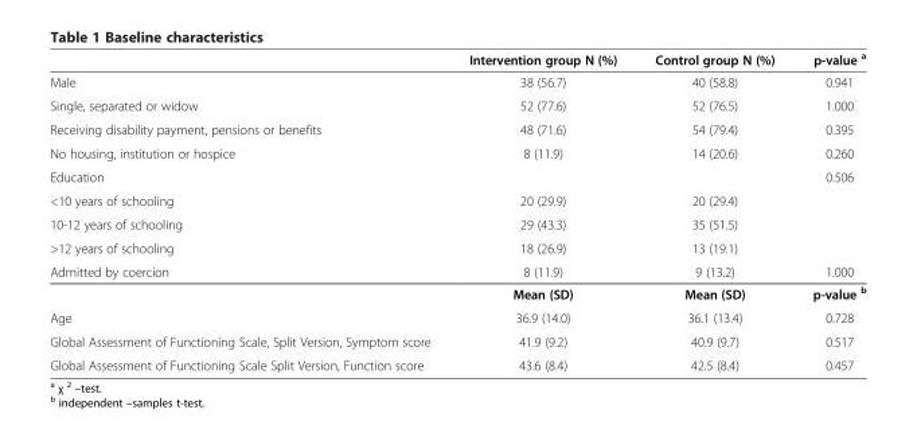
<table><thead><tr><td></td><td>Intervention group N (%)</td><td>Control group N (%)</td><td>p-value <sup>a</sup></td></tr></thead><tbody><tr><td>Male</td><td>38 (56.7)</td><td>40 (58.8)</td><td>0.941</td></tr><tr><td>Single, separated or widow</td><td>52 (77.6)</td><td>52 (76.5)</td><td>1.000</td></tr><tr><td>Receiving disability payment, pensions or benefits</td><td>48 (71.6)</td><td>54 (79.4)</td><td>0.395</td></tr><tr><td>No housing, institution or hospice</td><td>8 (11.9)</td><td>14 (20.6)</td><td>0.260</td></tr><tr><td>Education</td><td></td><td></td><td>0.506</td></tr><tr><td>&lt;10 years of schooling</td><td>20 (29.9)</td><td>20 (29.4)</td><td></td></tr><tr><td>10-12 years of schooling</td><td>29 (43.3)</td><td>35 (51.5)</td><td></td></tr><tr><td>&gt;12 years of schooling</td><td>18 (26.9)</td><td>13 (19.1)</td><td></td></tr><tr><td rowspan="2">Admitted by coercion</td><td>8 (11.9)</td><td>9 (13.2)</td><td>1.000</td></tr><tr><td>Mean (SD)</td><td>Mean (SD)</td><td>p-value <sup>b</sup></td></tr><tr><td>Age</td><td>36.9 (14.0)</td><td>36.1 (13.4)</td><td>0.728</td></tr><tr><td>Global Assessment of Functioning Scale, Split Version, Symptom score</td><td>41.9 (9.2)</td><td>40.9 (9.7)</td><td>0.517</td></tr><tr><td>Global Assessment of Functioning Scale Split Version, Function score</td><td>43.6 (8.4)</td><td>42.5 (8.4)</td><td>0.457</td></tr></tbody></table>